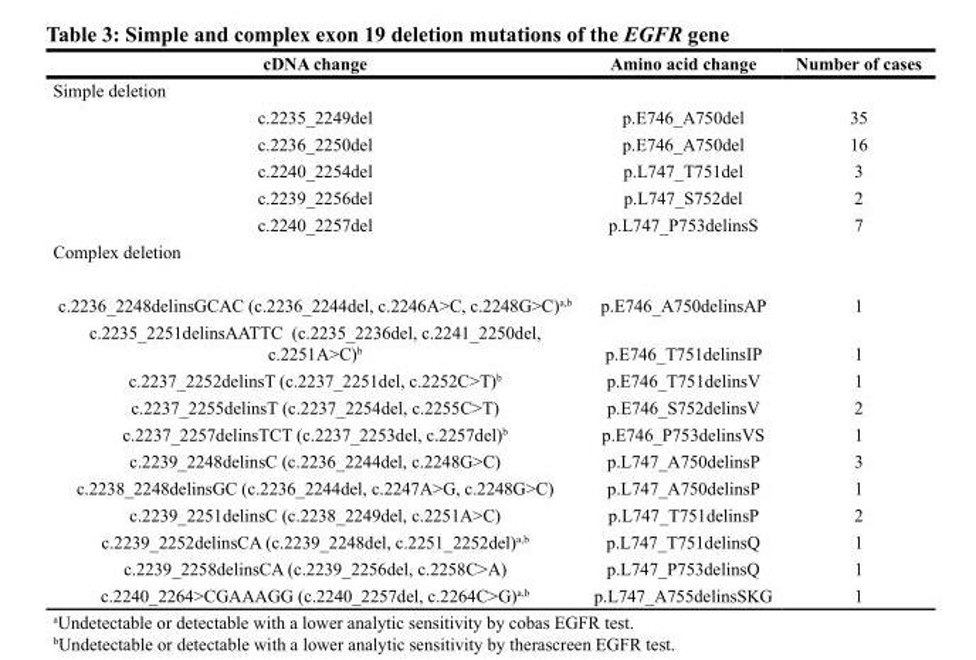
<table><thead><tr><td></td><td>cDNA change</td><td>Amino acid change</td><td>Number of cases</td></tr></thead><tbody><tr><td colspan="4">Simple deletion</td></tr><tr><td></td><td>c.2235_2249del</td><td>p.E746_A750del</td><td>35</td></tr><tr><td></td><td>c.2236_2250del</td><td>p.E746_A750del</td><td>16</td></tr><tr><td></td><td>c.2240_2254del</td><td>p.L747_T751del</td><td>3</td></tr><tr><td></td><td>c.2239_2256del</td><td>p.L747_S752del</td><td>2</td></tr><tr><td></td><td>c.2240_2257del</td><td>p.L747_P753delinsS</td><td>7</td></tr><tr><td colspan="4">Complex deletion</td></tr><tr><td colspan="2">c.2236_2248delinsGCAC (c.2236_2244del, c.2246A&gt;C, c.2248G&gt;C)<sup>a,b</sup></td><td>p.E746_A750delinsAP</td><td>1</td></tr><tr><td colspan="2">c.2235_2251delinsAATTC (c.2235_2236del, c.2241_2250del, c.2251A&gt;C)<sup>b</sup></td><td>p.E746_T751delinsIP</td><td>1</td></tr><tr><td colspan="2">c.2237_2252delinsT (c.2237_2251del, c.2252C&gt;T)<sup>b</sup></td><td>p.E746_T751delinsV</td><td>1</td></tr><tr><td colspan="2">c.2237_2255delinsT (c.2237_2254del, c.2255C&gt;T)</td><td>p.E746_S752delinsV</td><td>2</td></tr><tr><td colspan="2">c.2237_2257delinsTCT (c.2237_2253del, c.2257del)<sup>b</sup></td><td>p.E746_P753delinsVS</td><td>1</td></tr><tr><td colspan="2">c.2239_2248delinsC (c.2236_2244del, c.2248G&gt;C)</td><td>p.L747_A750delinsP</td><td>3</td></tr><tr><td colspan="2">c.2238_2248delinsGC (c.2236_2244del, c.2247A&gt;G, c.2248G&gt;C)</td><td>p.L747_A750delinsP</td><td>1</td></tr><tr><td colspan="2">c.2239_2251delinsC (c.2238_2249del, c.2251A&gt;C)</td><td>p.L747_T751delinsP</td><td>2</td></tr><tr><td colspan="2">c.2239_2252delinsCA (c.2239_2248del, c.2251_2252del)<sup>a,b</sup></td><td>p.L747_T751delinsQ</td><td>1</td></tr><tr><td colspan="2">c.2239_2258delinsCA (c.2239_2256del, c.2258C&gt;A)</td><td>p.L747_P753delinsQ</td><td>1</td></tr><tr><td colspan="2">c.2240_2264&gt;CGAAAGG (c.2240_2257del, c.2264C&gt;G)<sup>a,b</sup></td><td>p.L747_A755delinsSKG</td><td>1</td></tr></tbody></table>